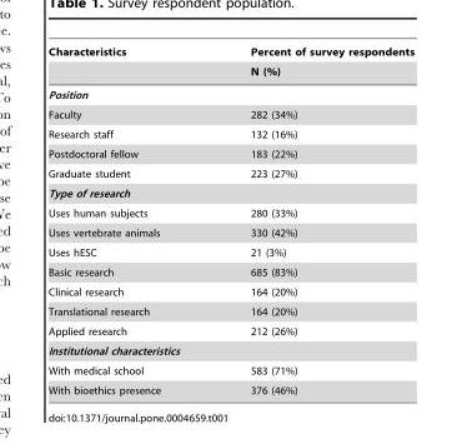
<table><thead><tr><td rowspan="2">Characteristics</td><td rowspan="2">Percent of survey respondents N (%)</td></tr><tr></tr></thead><tbody><tr><td colspan="2">Position</td></tr><tr><td>Faculty</td><td>282 (34%)</td></tr><tr><td>Research staff</td><td>132 (16%)</td></tr><tr><td>Postdoctoral fellow</td><td>183 (22%)</td></tr><tr><td>Graduate student</td><td>223 (27%)</td></tr><tr><td colspan="2">Type of research</td></tr><tr><td>Uses human subjects</td><td>280 (33%)</td></tr><tr><td>Uses vertebrate animals</td><td>330 (42%)</td></tr><tr><td>Uses hESC</td><td>21 (3%)</td></tr><tr><td>Basic research</td><td>685 (83%)</td></tr><tr><td>Clinical research</td><td>164 (20%)</td></tr><tr><td>Translational research</td><td>164 (20%)</td></tr><tr><td>Applied research</td><td>212 (26%)</td></tr><tr><td colspan="2">Institutional characteristics</td></tr><tr><td>With medical school</td><td>583 (71%)</td></tr><tr><td>With bioethics presence</td><td>376 (46%)</td></tr></tbody></table>